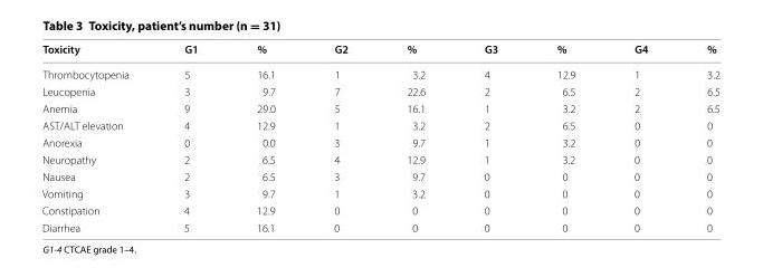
<table><thead><tr><td>Toxicity</td><td>G1</td><td>%</td><td>G2</td><td>%</td><td>G3</td><td>%</td><td>G4</td><td>%</td></tr></thead><tbody><tr><td>Thrombocytopenia</td><td>5</td><td>16.1</td><td>1</td><td>3.2</td><td>4</td><td>12.9</td><td>1</td><td>3.2</td></tr><tr><td>Leucopenia</td><td>3</td><td>9.7</td><td>7</td><td>22.6</td><td>2</td><td>6.5</td><td>2</td><td>6.5</td></tr><tr><td>Anemia</td><td>9</td><td>29.0</td><td>5</td><td>16.1</td><td>1</td><td>3.2</td><td>2</td><td>6.5</td></tr><tr><td>AST/ALT elevation</td><td>4</td><td>12.9</td><td>1</td><td>3.2</td><td>2</td><td>6.5</td><td>0</td><td>0</td></tr><tr><td>Anorexia</td><td>0</td><td>0.0</td><td>3</td><td>9.7</td><td>1</td><td>3.2</td><td>0</td><td>0</td></tr><tr><td>Neuropathy</td><td>2</td><td>6.5</td><td>4</td><td>12.9</td><td>1</td><td>3.2</td><td>0</td><td>0</td></tr><tr><td>Nausea</td><td>2</td><td>6.5</td><td>3</td><td>9.7</td><td>0</td><td>0</td><td>0</td><td>0</td></tr><tr><td>Vomiting</td><td>3</td><td>9.7</td><td>1</td><td>3.2</td><td>0</td><td>0</td><td>0</td><td>0</td></tr><tr><td>Constipation</td><td>4</td><td>12.9</td><td>0</td><td>0</td><td>0</td><td>0</td><td>0</td><td>0</td></tr><tr><td>Diarrhea</td><td>5</td><td>16.1</td><td>0</td><td>0</td><td>0</td><td>0</td><td>0</td><td>0</td></tr></tbody></table>